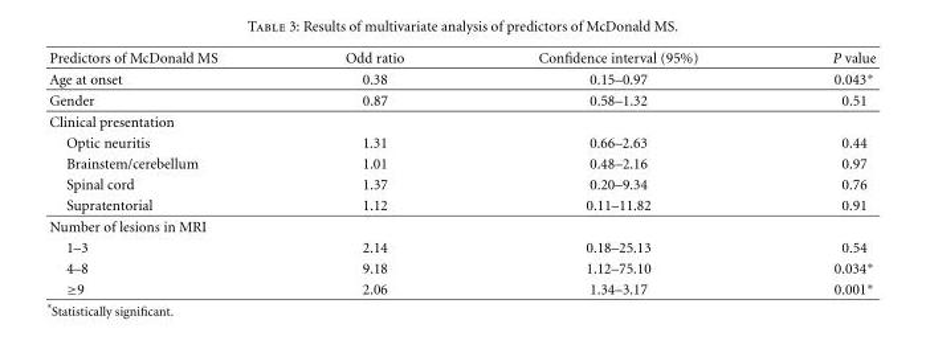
<table><thead><tr><td>Predictors of McDonald MS</td><td>Odd ratio</td><td>Confidence interval (95%)</td><td>P value</td></tr></thead><tbody><tr><td>Age at onset</td><td>0.38</td><td>0.15–0.97</td><td>0.043∗</td></tr><tr><td>Gender</td><td>0.87</td><td>0.58–1.32</td><td>0.51</td></tr><tr><td colspan="4">Clinical presentation</td></tr><tr><td>Optic neuritis</td><td>1.31</td><td>0.66–2.63</td><td>0.44</td></tr><tr><td>Brainstem/cerebellum</td><td>1.01</td><td>0.48–2.16</td><td>0.97</td></tr><tr><td>Spinal cord</td><td>1.37</td><td>0.20–9.34</td><td>0.76</td></tr><tr><td>Supratentorial</td><td>1.12</td><td>0.11–11.82</td><td>0.91</td></tr><tr><td colspan="4">Number of lesions in MRI</td></tr><tr><td>1–3</td><td>2.14</td><td>0.18–25.13</td><td>0.54</td></tr><tr><td>4–8</td><td>9.18</td><td>1.12–75.10</td><td>0.034∗</td></tr><tr><td>≥9</td><td>2.06</td><td>1.34–3.17</td><td>0.001∗</td></tr></tbody></table>